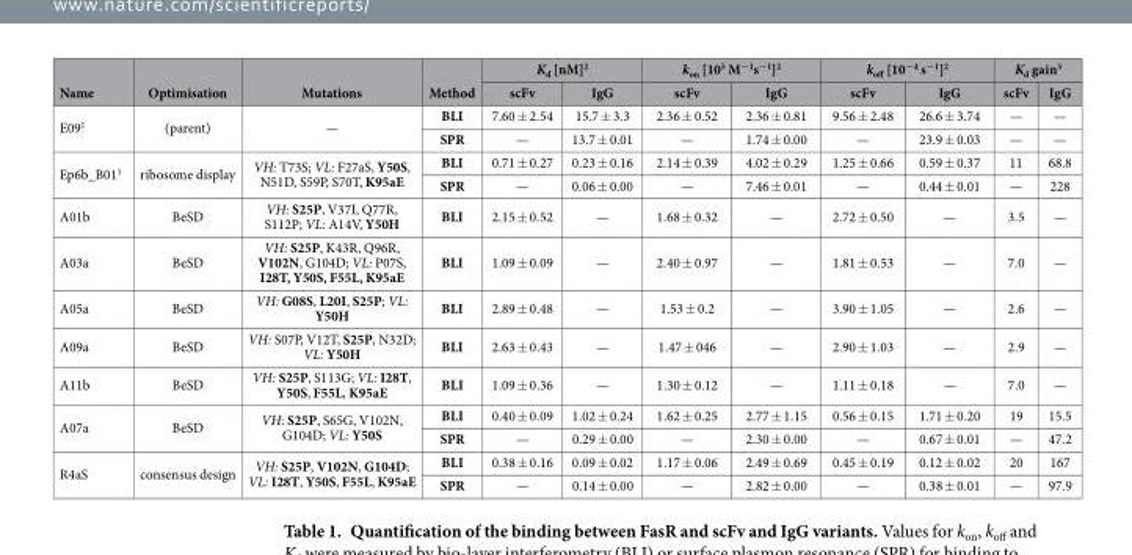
<table><thead><tr><td rowspan="2">Name</td><td rowspan="2">Optimisation</td><td rowspan="2">Mutations</td><td rowspan="2">Method</td><td colspan="2">K<sub>d</sub> [nM]<sup>2</sup></td><td colspan="2">k<sub>on</sub> [10<sup>5</sup> M<sup>−1</sup>s<sup>−1</sup>]<sup>2</sup></td><td colspan="2">k<sub>off</sub> [10<sup>−4</sup> s<sup>−1</sup>]<sup>2</sup></td><td colspan="2">K<sub>d</sub> gain<sup>3</sup></td></tr><tr><td>scFv</td><td>IgG</td><td>scFv</td><td>IgG</td><td>scFv</td><td>IgG</td><td>scFv</td><td>IgG</td></tr></thead><tbody><tr><td rowspan="2">E09<sup>1</sup></td><td rowspan="2">(parent)</td><td rowspan="2">—</td><td>BLI</td><td>7.60 ± 2.54</td><td>15.7 ± 3.3</td><td>2.36 ± 0.52</td><td>2.36 ± 0.81</td><td>9.56 ± 2.48</td><td>26.6 ± 3.74</td><td>—</td><td>—</td></tr><tr><td>SPR</td><td>—</td><td>13.7 ± 0.01</td><td>—</td><td>1.74 ± 0.00</td><td>—</td><td>23.9 ± 0.03</td><td>—</td><td>—</td></tr><tr><td rowspan="2">Ep6b_B01<sup>1</sup></td><td rowspan="2">ribosome display</td><td rowspan="2">VH: T73S; VL: F27aS, Y50S, N51D, S59P, S70T, K95aE</td><td>BLI</td><td>0.71 ± 0.27</td><td>0.23 ± 0.16</td><td>2.14 ± 0.39</td><td>4.02 ± 0.29</td><td>1.25 ± 0.66</td><td>0.59 ± 0.37</td><td>11</td><td>68.8</td></tr><tr><td>SPR</td><td>—</td><td>0.06 ± 0.00</td><td>—</td><td>7.46 ± 0.01</td><td>—</td><td>0.44 ± 0.01</td><td>—</td><td>228</td></tr><tr><td>A01b</td><td>BeSD</td><td>VH: S25P, V37I, Q77R, S112P; VL: A14V, Y50H</td><td>BLI</td><td>2.15 ± 0.52</td><td>—</td><td>1.68 ± 0.32</td><td>—</td><td>2.72 ± 0.50</td><td>—</td><td>3.5</td><td>—</td></tr><tr><td>A03a</td><td>BeSD</td><td>VH: S25P, K43R, Q96R, V102N, G104D; VL: P07S, I28T, Y50S, F55L, K95aE</td><td>BLI</td><td>1.09 ± 0.09</td><td>—</td><td>2.40 ± 0.97</td><td>—</td><td>1.81 ± 0.53</td><td>—</td><td>7.0</td><td>—</td></tr><tr><td>A05a</td><td>BeSD</td><td>VH: G08S, L20I, S25P; VL: Y50H</td><td>BLI</td><td>2.89 ± 0.48</td><td>—</td><td>1.53 ± 0.2</td><td>—</td><td>3.90 ± 1.05</td><td>—</td><td>2.6</td><td>—</td></tr><tr><td>A09a</td><td>BeSD</td><td>VH: S07P, V12T, S25P, N32D; VL: Y50H</td><td>BLI</td><td>2.63 ± 0.43</td><td>—</td><td>1.47 ± 046</td><td>—</td><td>2.90 ± 1.03</td><td>—</td><td>2.9</td><td>—</td></tr><tr><td>A11b</td><td>BeSD</td><td>VH: S25P, S113G; VL: I28T, Y50S, F55L, K95aE</td><td>BLI</td><td>1.09 ± 0.36</td><td>—</td><td>1.30 ± 0.12</td><td>—</td><td>1.11 ± 0.18</td><td>—</td><td>7.0</td><td>—</td></tr><tr><td rowspan="2">A07a</td><td rowspan="2">BeSD</td><td rowspan="2">VH: S25P, S65G, V102N, G104D; VL: Y50S</td><td>BLI</td><td>0.40 ± 0.09</td><td>1.02 ± 0.24</td><td>1.62 ± 0.25</td><td>2.77 ± 1.15</td><td>0.56 ± 0.15</td><td>1.71 ± 0.20</td><td>19</td><td>15.5</td></tr><tr><td>SPR</td><td>—</td><td>0.29 ± 0.00</td><td>—</td><td>2.30 ± 0.00</td><td>—</td><td>0.67 ± 0.01</td><td>—</td><td>47.2</td></tr><tr><td rowspan="2">R4aS</td><td rowspan="2">consensus design</td><td rowspan="2">VH: S25P, V102N, G104D; VL: I28T, Y50S, F55L, K95aE</td><td>BLI</td><td>0.38 ± 0.16</td><td>0.09 ± 0.02</td><td>1.17 ± 0.06</td><td>2.49 ± 0.69</td><td>0.45 ± 0.19</td><td>0.12 ± 0.02</td><td>20</td><td>167</td></tr><tr><td>SPR</td><td>—</td><td>0.14 ± 0.00</td><td>—</td><td>2.82 ± 0.00</td><td>—</td><td>0.38 ± 0.01</td><td>—</td><td>97.9</td></tr></tbody></table>